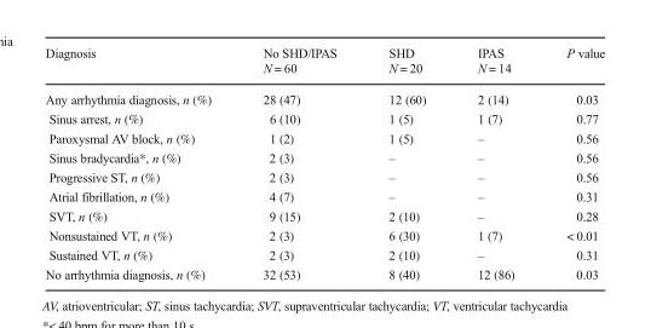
<table><thead><tr><td>Diagnosis</td><td>No SHD/IPAS N = 60</td><td>SHD N = 20</td><td>IPAS N = 14</td><td>P value</td></tr></thead><tbody><tr><td>Any arrhythmia diagnosis, n (%)</td><td>28 (47)</td><td>12 (60)</td><td>2 (14)</td><td>0.03</td></tr><tr><td>Sinus arrest, n (%)</td><td>6 (10)</td><td>1 (5)</td><td>1 (7)</td><td>0.77</td></tr><tr><td>Paroxysmal AV block, n (%)</td><td>1 (2)</td><td>1 (5)</td><td>–</td><td>0.56</td></tr><tr><td>Sinus bradycardia*, n (%)</td><td>2 (3)</td><td>–</td><td>–</td><td>0.56</td></tr><tr><td>Progressive ST, n (%)</td><td>2 (3)</td><td>–</td><td>–</td><td>0.56</td></tr><tr><td>Atrial fibrillation, n (%)</td><td>4 (7)</td><td>–</td><td>–</td><td>0.31</td></tr><tr><td>SVT, n (%)</td><td>9 (15)</td><td>2 (10)</td><td>–</td><td>0.28</td></tr><tr><td>Nonsustained VT, n (%)</td><td>2 (3)</td><td>6 (30)</td><td>1 (7)</td><td>&lt; 0.01</td></tr><tr><td>Sustained VT, n (%)</td><td>2 (3)</td><td>2 (10)</td><td>–</td><td>0.31</td></tr><tr><td>No arrhythmia diagnosis, n (%)</td><td>32 (53)</td><td>8 (40)</td><td>12 (86)</td><td>0.03</td></tr></tbody></table>